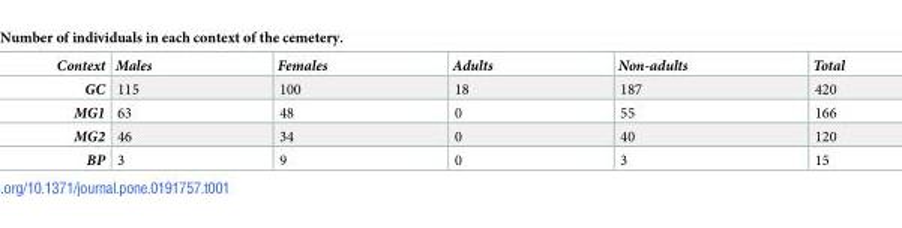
<table><thead><tr><td>Context</td><td>Males</td><td>Females</td><td>Adults</td><td>Non-adults</td><td>Total</td></tr></thead><tbody><tr><td>GC</td><td>115</td><td>100</td><td>18</td><td>187</td><td>420</td></tr><tr><td>MG1</td><td>63</td><td>48</td><td>0</td><td>55</td><td>166</td></tr><tr><td>MG2</td><td>46</td><td>34</td><td>0</td><td>40</td><td>120</td></tr><tr><td>BP</td><td>3</td><td>9</td><td>0</td><td>3</td><td>15</td></tr></tbody></table>